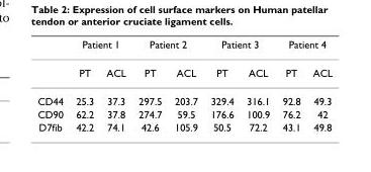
<table><thead><tr><td rowspan="2"></td><td colspan="2">Patient 1</td><td colspan="2">Patient 2</td><td colspan="2">Patient 3</td><td colspan="2">Patient 4</td></tr><tr><td>PT</td><td>ACL</td><td>PT</td><td>ACL</td><td>PT</td><td>ACL</td><td>PT</td><td>ACL</td></tr></thead><tbody><tr><td>CD44</td><td>25.3</td><td>37.3</td><td>297.5</td><td>203.7</td><td>329.4</td><td>316.1</td><td>92.8</td><td>49.3</td></tr><tr><td>CD90</td><td>62.2</td><td>37.8</td><td>274.7</td><td>59.5</td><td>176.6</td><td>100.9</td><td>76.2</td><td>42</td></tr><tr><td>D7fib</td><td>42.2</td><td>74.1</td><td>42.6</td><td>105.9</td><td>50.5</td><td>72.2</td><td>43.1</td><td>49.8</td></tr></tbody></table>